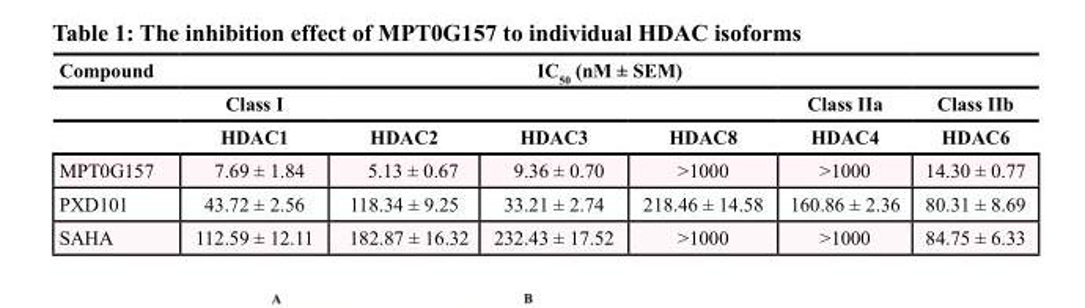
<table><thead><tr><td rowspan="3">Compound</td><td colspan="6">IC<sub>50</sub> (nM ± SEM)</td></tr><tr><td colspan="4">Class I</td><td rowspan="2">Class IIa HDAC4</td><td rowspan="2">Class IIb HDAC6</td></tr><tr><td>HDAC1</td><td>HDAC2</td><td>HDAC3</td><td>HDAC8</td></tr></thead><tbody><tr><td>MPT0G157</td><td>7.69 ± 1.84</td><td>5.13 ± 0.67</td><td>9.36 ± 0.70</td><td>&gt;1000</td><td>&gt;1000</td><td>14.30 ± 0.77</td></tr><tr><td>PXD101</td><td>43.72 ± 2.56</td><td>118.34 ± 9.25</td><td>33.21 ± 2.74</td><td>218.46 ± 14.58</td><td>160.86 ± 2.36</td><td>80.31 ± 8.69</td></tr><tr><td>SAHA</td><td>112.59 ± 12.11</td><td>182.87 ± 16.32</td><td>232.43 ± 17.52</td><td>&gt;1000</td><td>&gt;1000</td><td>84.75 ± 6.33</td></tr></tbody></table>